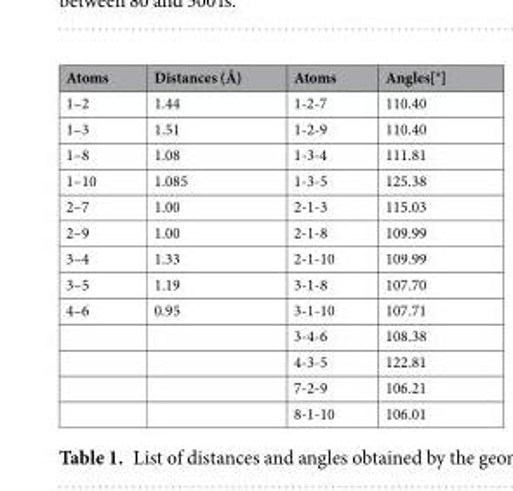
<table><thead><tr><td>Atoms</td><td>Distances (Å)</td><td>Atoms</td><td>Angles[°]</td></tr></thead><tbody><tr><td>1–2</td><td>1.44</td><td>1-2-7</td><td>110.40</td></tr><tr><td>1–3</td><td>1.51</td><td>1-2-9</td><td>110.40</td></tr><tr><td>1–8</td><td>1.08</td><td>1-3-4</td><td>111.81</td></tr><tr><td>1–10</td><td>1.085</td><td>1-3-5</td><td>125.38</td></tr><tr><td>2–7</td><td>1.00</td><td>2-1-3</td><td>115.03</td></tr><tr><td>2–9</td><td>1.00</td><td>2-1-8</td><td>109.99</td></tr><tr><td>3–4</td><td>1.33</td><td>2-1-10</td><td>109.99</td></tr><tr><td>3–5</td><td>1.19</td><td>3-1-8</td><td>107.70</td></tr><tr><td rowspan="5">4–6</td><td>0.95</td><td>3-1-10</td><td>107.71</td></tr><tr><td></td><td>3-4-6</td><td>108.38</td></tr><tr><td></td><td>4-3-5</td><td>122.81</td></tr><tr><td></td><td>7-2-9</td><td>106.21</td></tr><tr><td></td><td>8-1-10</td><td>106.01</td></tr></tbody></table>